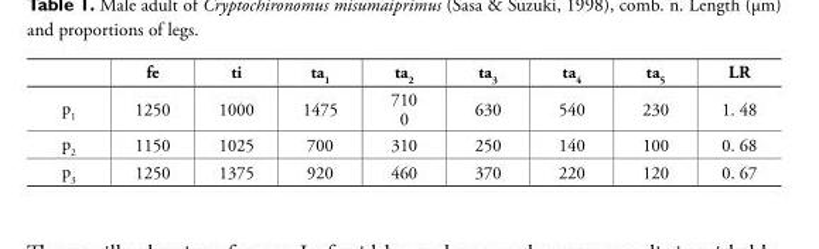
<table><thead><tr><td></td><td>fe</td><td>ti</td><td>ta<sub>1</sub></td><td>ta<sub>2</sub></td><td>ta<sub>3</sub></td><td>ta<sub>4</sub></td><td>ta<sub>5</sub></td><td>LR</td></tr></thead><tbody><tr><td>p<sub>1</sub></td><td>1250</td><td>1000</td><td>1475</td><td>710 0</td><td>630</td><td>540</td><td>230</td><td>1. 48</td></tr><tr><td>p<sub>2</sub></td><td>1150</td><td>1025</td><td>700</td><td>310</td><td>250</td><td>140</td><td>100</td><td>0. 68</td></tr><tr><td>p<sub>3</sub></td><td>1250</td><td>1375</td><td>920</td><td>460</td><td>370</td><td>220</td><td>120</td><td>0. 67</td></tr></tbody></table>